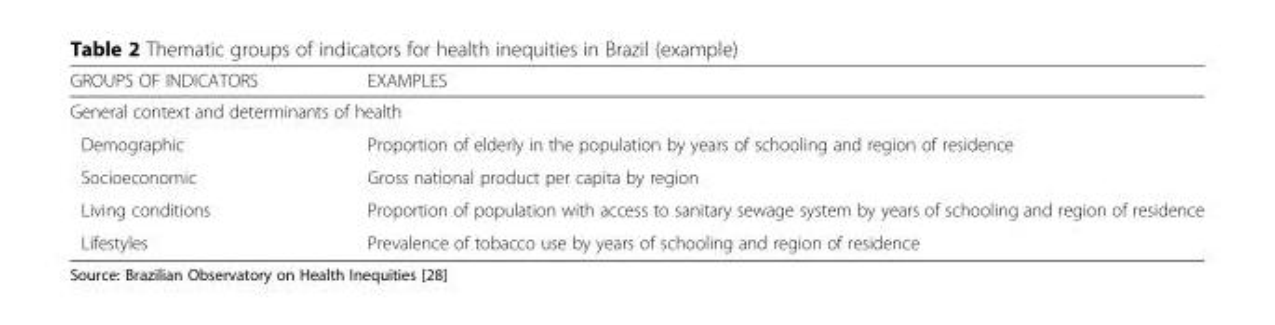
<table><thead><tr><td>GROUPS OF INDICATORS</td><td>EXAMPLES</td></tr></thead><tbody><tr><td colspan="2">General context and determinants of health</td></tr><tr><td>Demographic</td><td>Proportion of elderly in the population by years of schooling and region of residence</td></tr><tr><td>Socioeconomic</td><td>Gross national product per capita by region</td></tr><tr><td>Living conditions</td><td>Proportion of population with access to sanitary sewage system by years of schooling and region of residence</td></tr><tr><td>Lifestyles</td><td>Prevalence of tobacco use by years of schooling and region of residence</td></tr></tbody></table>